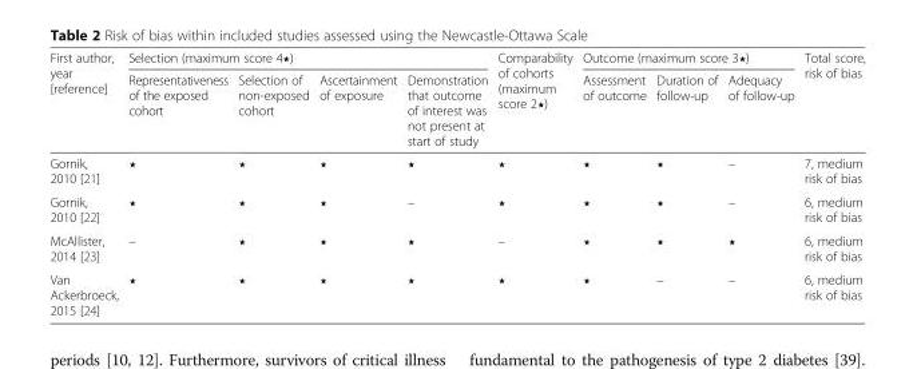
<table><thead><tr><td rowspan="2">First author, year [reference]</td><td colspan="4">Selection (maximum score 4⋆)</td><td rowspan="2">Comparability of cohorts (maximum score 2⋆)</td><td colspan="3">Outcome (maximum score 3⋆)</td><td rowspan="2">Total score, risk of bias</td></tr><tr><td>Representativeness of the exposed cohort</td><td>Selection of non-exposed cohort</td><td>Ascertainment of exposure</td><td>Demonstration that outcome of interest was not present at start of study</td><td>Assessment of outcome</td><td>Duration of follow-up</td><td>Adequacy of follow-up</td></tr></thead><tbody><tr><td>Gornik, 2010 [21]</td><td>⋆</td><td>⋆</td><td>⋆</td><td>⋆</td><td>⋆</td><td>⋆</td><td>⋆</td><td>–</td><td>7, medium risk of bias</td></tr><tr><td>Gornik, 2010 [22]</td><td>⋆</td><td>⋆</td><td>⋆</td><td>–</td><td>⋆</td><td>⋆</td><td>⋆</td><td>–</td><td>6, medium risk of bias</td></tr><tr><td>McAllister, 2014 [23]</td><td>–</td><td>⋆</td><td>⋆</td><td>⋆</td><td>–</td><td>⋆</td><td>⋆</td><td>⋆</td><td>6, medium risk of bias</td></tr><tr><td>Van Ackerbroeck, 2015 [24]</td><td>⋆</td><td>⋆</td><td>⋆</td><td>⋆</td><td>⋆</td><td>⋆</td><td>–</td><td>–</td><td>6, medium risk of bias</td></tr></tbody></table>